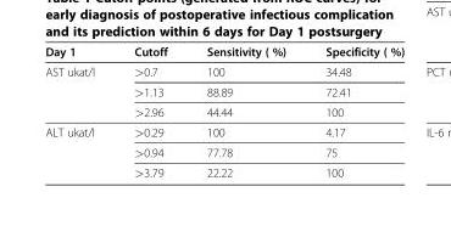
<table><thead><tr><td>Day 1</td><td>Cutoff</td><td>Sensitivity ( %)</td><td>Specificity ( %)</td></tr></thead><tbody><tr><td rowspan="3">AST ukat/l</td><td>&gt;0.7</td><td>100</td><td>34.48</td></tr><tr><td>&gt;1.13</td><td>88.89</td><td>72.41</td></tr><tr><td>&gt;2.96</td><td>44.44</td><td>100</td></tr><tr><td rowspan="3">ALT ukat/l</td><td>&gt;0.29</td><td>100</td><td>4.17</td></tr><tr><td>&gt;0.94</td><td>77.78</td><td>75</td></tr><tr><td>&gt;3.79</td><td>22.22</td><td>100</td></tr></tbody></table>